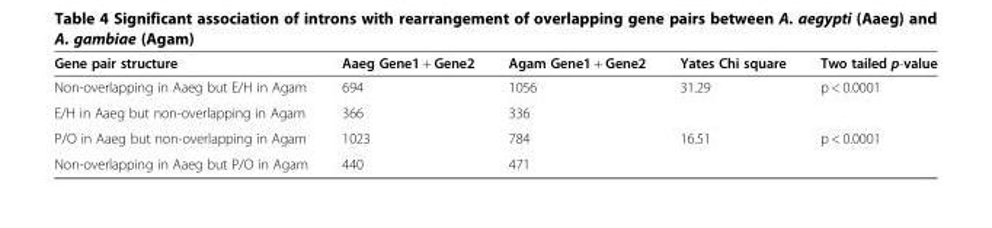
<table><thead><tr><td>Gene pair structure</td><td>Aaeg Gene1 + Gene2</td><td>Agam Gene1 + Gene2</td><td>Yates Chi square</td><td>Two tailed p-value</td></tr></thead><tbody><tr><td>Non-overlapping in Aaeg but E/H in Agam</td><td>694</td><td>1056</td><td>31.29</td><td>p &lt; 0.0001</td></tr><tr><td>E/H in Aaeg but non-overlapping in Agam</td><td>366</td><td>336</td><td></td><td></td></tr><tr><td>P/O in Aaeg but non-overlapping in Agam</td><td>1023</td><td>784</td><td>16.51</td><td>p &lt; 0.0001</td></tr><tr><td>Non-overlapping in Aaeg but P/O in Agam</td><td>440</td><td>471</td><td></td><td></td></tr></tbody></table>